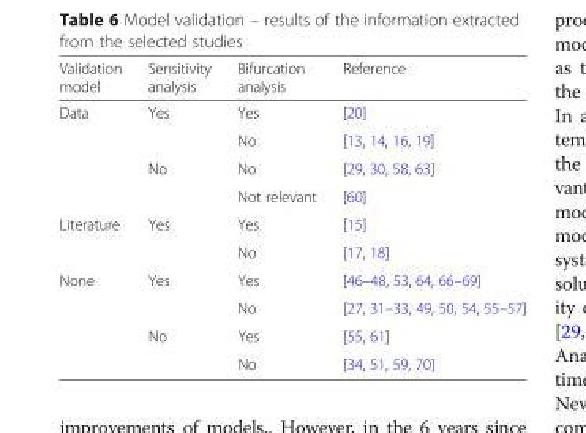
<table><thead><tr><td>Validation model</td><td>Sensitivity analysis</td><td>Bifurcation analysis</td><td>Reference</td></tr></thead><tbody><tr><td rowspan="4">Data</td><td rowspan="2">Yes</td><td>Yes</td><td>[20]</td></tr><tr><td>No</td><td>[13, 14, 16, 19]</td></tr><tr><td rowspan="2">No</td><td>No</td><td>[29, 30, 58, 63]</td></tr><tr><td>Not relevant</td><td>[60]</td></tr><tr><td rowspan="2">Literature</td><td rowspan="2">Yes</td><td>Yes</td><td>[15]</td></tr><tr><td>No</td><td>[17, 18]</td></tr><tr><td rowspan="4">None</td><td rowspan="2">Yes</td><td>Yes</td><td>[46–48, 53, 64, 66–69]</td></tr><tr><td>No</td><td>[27, 31–33, 49, 50, 54, 55–57]</td></tr><tr><td rowspan="2">No</td><td>Yes</td><td>[55, 61]</td></tr><tr><td>No</td><td>[34, 51, 59, 70]</td></tr></tbody></table>